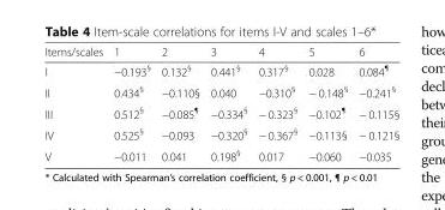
<table><thead><tr><td>Items/scales</td><td>1</td><td>2</td><td>3</td><td>4</td><td>5</td><td>6</td></tr></thead><tbody><tr><td>I</td><td>−0.193<sup>§</sup></td><td>0.132<sup>§</sup></td><td>0.441<sup>§</sup></td><td>0.317<sup>§</sup></td><td>0.028</td><td>0.084<sup>¶</sup></td></tr><tr><td>II</td><td>0.434<sup>§</sup></td><td>−0.110§</td><td>0.040</td><td>−0.310<sup>§</sup></td><td>− 0.148<sup>§</sup></td><td>−0.241<sup>§</sup></td></tr><tr><td>III</td><td>0.512<sup>§</sup></td><td>−0.085<sup>¶</sup></td><td>−0.334<sup>§</sup></td><td>− 0.323<sup>§</sup></td><td>−0.102<sup>¶</sup></td><td>− 0.115§</td></tr><tr><td>IV</td><td>0.525<sup>§</sup></td><td>−0.093</td><td>−0.320<sup>§</sup></td><td>− 0.367<sup>§</sup></td><td>−0.113§</td><td>− 0.121§</td></tr><tr><td>V</td><td>−0.011</td><td>0.041</td><td>0.198<sup>§</sup></td><td>0.017</td><td>−0.060</td><td>−0.035</td></tr></tbody></table>